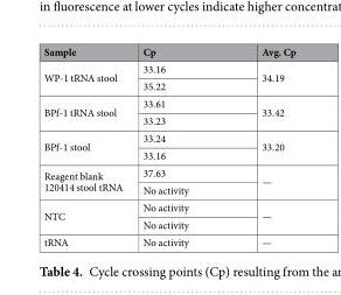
<table><thead><tr><td>Sample</td><td>Cp</td><td>Avg. Cp</td></tr></thead><tbody><tr><td rowspan="2">WP-1 tRNA stool</td><td>33.16</td><td rowspan="2">34.19</td></tr><tr><td>35.22</td></tr><tr><td rowspan="2">BPf-1 tRNA stool</td><td>33.61</td><td rowspan="2">33.42</td></tr><tr><td>33.23</td></tr><tr><td rowspan="2">BPf-1 stool</td><td>33.24</td><td rowspan="2">33.20</td></tr><tr><td>33.16</td></tr><tr><td rowspan="2">Reagent blank 120414 stool tRNA</td><td>37.63</td><td rowspan="2">—</td></tr><tr><td>No activity</td></tr><tr><td rowspan="2">NTC</td><td>No activity</td><td rowspan="2">—</td></tr><tr><td>No activity</td></tr><tr><td>tRNA</td><td>No activity</td><td>—</td></tr></tbody></table>